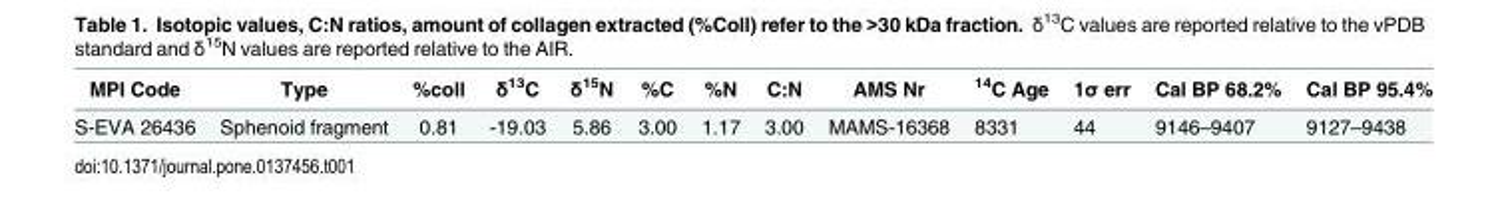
<table><thead><tr><td>MPI Code</td><td>Type</td><td>%coll</td><td>δ<sup>13</sup>C</td><td>δ<sup>15</sup>N</td><td>%C</td><td>%N</td><td>C:N</td><td>AMS Nr</td><td><sup>14</sup>C Age</td><td>1σ err</td><td>Cal BP 68.2%</td><td>Cal BP 95.4%</td></tr></thead><tbody><tr><td>S-EVA 26436</td><td>Sphenoid fragment</td><td>0.81</td><td>-19.03</td><td>5.86</td><td>3.00</td><td>1.17</td><td>3.00</td><td>MAMS-16368</td><td>8331</td><td>44</td><td>9146–9407</td><td>9127–9438</td></tr></tbody></table>